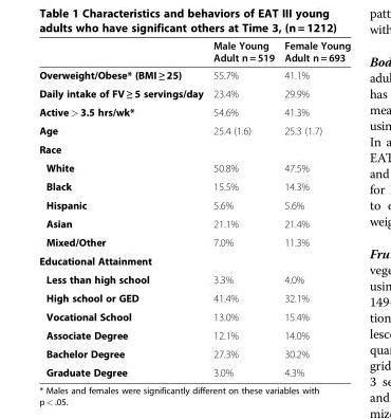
<table><thead><tr><td></td><td>Male Young Adult n = 519</td><td>Female Young Adult n = 693</td></tr></thead><tbody><tr><td>Overweight/Obese* (BMI ≥ 25)</td><td>55.7%</td><td>41.1%</td></tr><tr><td>Daily intake of FV ≥ 5 servings/day</td><td>23.4%</td><td>29.9%</td></tr><tr><td>Active &gt; 3.5 hrs/wk*</td><td>54.6%</td><td>41.3%</td></tr><tr><td>Age</td><td>25.4 (1.6)</td><td>25.3 (1.7)</td></tr><tr><td colspan="3">Race</td></tr><tr><td>White</td><td>50.8%</td><td>47.5%</td></tr><tr><td>Black</td><td>15.5%</td><td>14.3%</td></tr><tr><td>Hispanic</td><td>5.6%</td><td>5.6%</td></tr><tr><td>Asian</td><td>21.1%</td><td>21.4%</td></tr><tr><td>Mixed/Other</td><td>7.0%</td><td>11.3%</td></tr><tr><td colspan="3">Educational Attainment</td></tr><tr><td>Less than high school</td><td>3.3%</td><td>4.0%</td></tr><tr><td>High school or GED</td><td>41.4%</td><td>32.1%</td></tr><tr><td>Vocational School</td><td>13.0%</td><td>15.4%</td></tr><tr><td>Associate Degree</td><td>12.1%</td><td>14.0%</td></tr><tr><td>Bachelor Degree</td><td>27.3%</td><td>30.2%</td></tr><tr><td>Graduate Degree</td><td>3.0%</td><td>4.3%</td></tr></tbody></table>